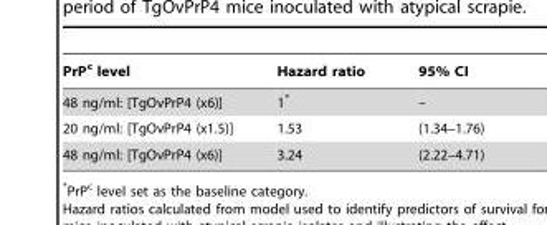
<table><thead><tr><td>PrP<sup>c</sup> level</td><td>Hazard ratio</td><td>95% CI</td></tr></thead><tbody><tr><td>48 ng/ml: [TgOvPrP4 (x6)]</td><td>1*</td><td>–</td></tr><tr><td>20 ng/ml: [TgOvPrP4 (x1.5)]</td><td>1.53</td><td>(1.34–1.76)</td></tr><tr><td>48 ng/ml: [TgOvPrP4 (x6)]</td><td>3.24</td><td>(2.22–4.71)</td></tr></tbody></table>